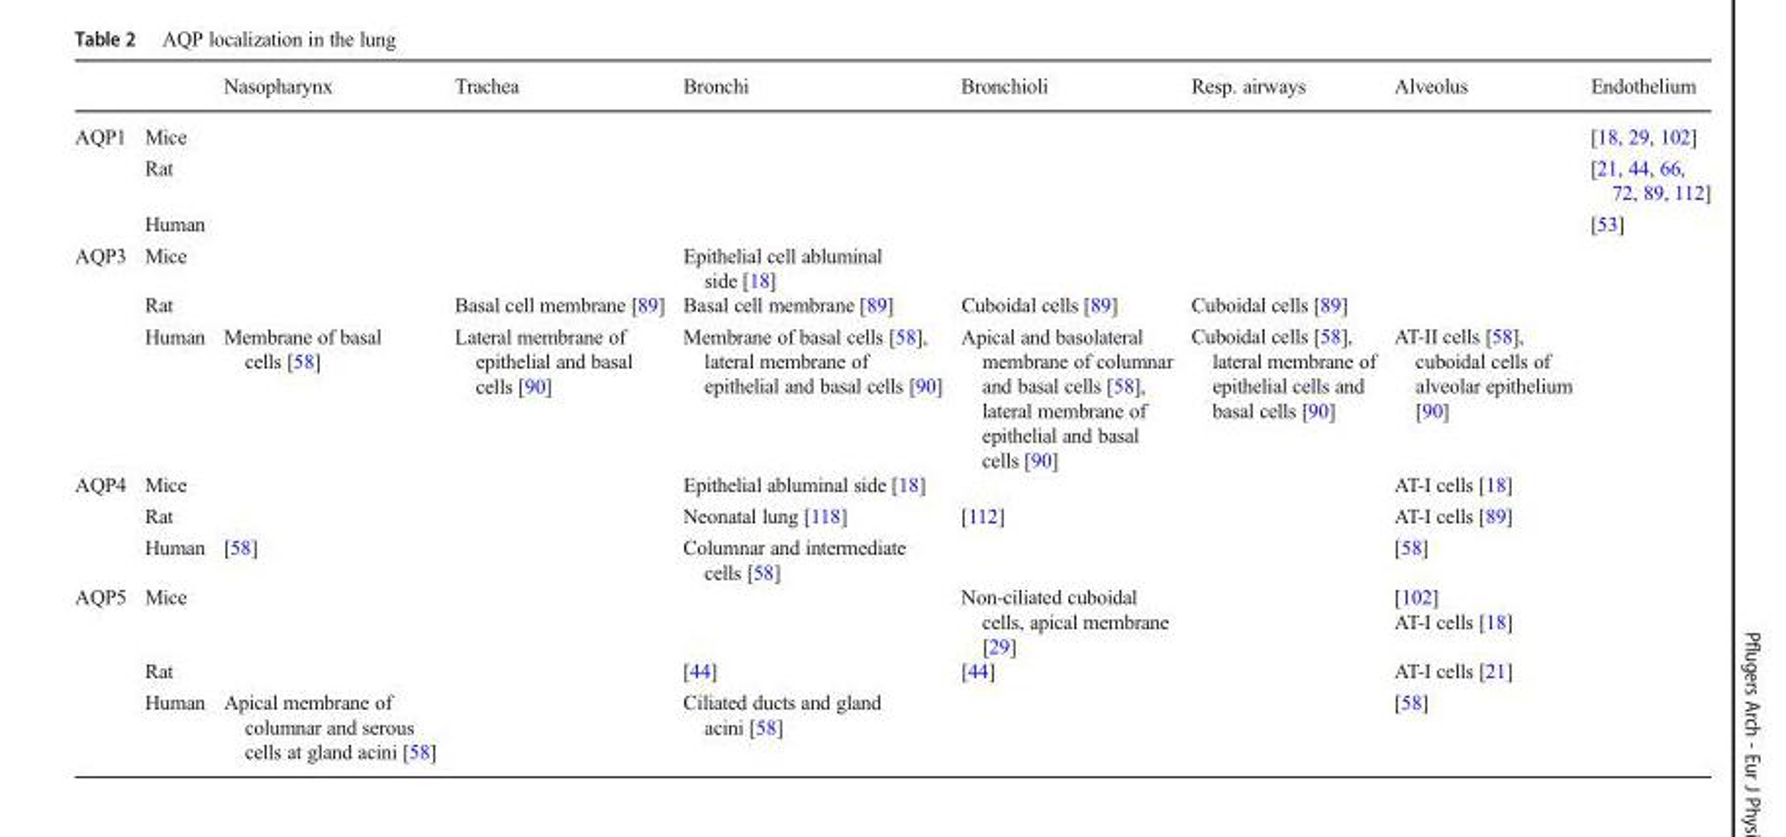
<table><thead><tr><td></td><td></td><td>Nasopharynx</td><td>Trachea</td><td>Bronchi</td><td>Bronchioli</td><td>Resp. airways</td><td>Alveolus</td><td>Endothelium</td></tr></thead><tbody><tr><td rowspan="3">AQP1</td><td>Mice</td><td></td><td></td><td></td><td></td><td></td><td></td><td>[18, 29, 102]</td></tr><tr><td>Rat</td><td></td><td></td><td></td><td></td><td></td><td></td><td>[21, 44, 66, 72, 89, 112]</td></tr><tr><td>Human</td><td></td><td></td><td></td><td></td><td></td><td></td><td>[53]</td></tr><tr><td rowspan="3">AQP3</td><td>Mice</td><td></td><td></td><td>Epithelial cell abluminal side [18]</td><td></td><td></td><td></td><td></td></tr><tr><td>Rat</td><td></td><td>Basal cell membrane [89]</td><td>Basal cell membrane [89]</td><td>Cuboidal cells [89]</td><td>Cuboidal cells [89]</td><td></td><td></td></tr><tr><td>Human</td><td>Membrane of basal cells [58]</td><td>Lateral membrane of epithelial and basal cells [90]</td><td>Membrane of basal cells [58], lateral membrane of epithelial and basal cells [90]</td><td>Apical and basolateral membrane of columnar and basal cells [58], lateral membrane of epithelial and basal cells [90]</td><td>Cuboidal cells [58], lateral membrane of epithelial cells and basal cells [90]</td><td>AT-II cells [58], cuboidal cells of alveolar epithelium [90]</td><td></td></tr><tr><td rowspan="3">AQP4</td><td>Mice</td><td></td><td></td><td>Epithelial abluminal side [18]</td><td></td><td></td><td>AT-I cells [18]</td><td></td></tr><tr><td>Rat</td><td></td><td></td><td>Neonatal lung [118]</td><td>[112]</td><td></td><td>AT-I cells [89]</td><td></td></tr><tr><td>Human</td><td>[58]</td><td></td><td>Columnar and intermediate cells [58]</td><td></td><td></td><td>[58]</td><td></td></tr><tr><td rowspan="3">AQP5</td><td>Mice</td><td></td><td></td><td></td><td>Non-ciliated cuboidal cells, apical membrane [29]</td><td></td><td>[102] AT-I cells [18]</td><td></td></tr><tr><td>Rat</td><td></td><td></td><td>[44]</td><td>[44]</td><td></td><td>AT-I cells [21]</td><td></td></tr><tr><td>Human</td><td>Apical membrane of columnar and serous cells at gland acini [58]</td><td></td><td>Ciliated ducts and gland acini [58]</td><td></td><td></td><td>[58]</td><td></td></tr></tbody></table>